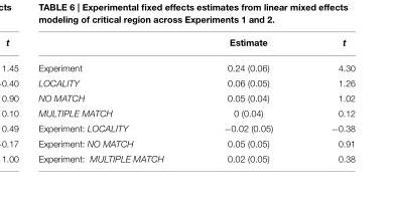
<table><thead><tr><td></td><td>Estimate</td><td>t</td></tr></thead><tbody><tr><td>Experiment</td><td>0.24 (0.06)</td><td>4.30</td></tr><tr><td>LOCALITY</td><td>0.06 (0.05)</td><td>1.26</td></tr><tr><td>NO MATCH</td><td>0.05 (0.04)</td><td>1.02</td></tr><tr><td>MULTIPLE MATCH</td><td>0 (0.04)</td><td>0.12</td></tr><tr><td>Experiment: LOCALITY</td><td>−0.02 (0.05)</td><td>−0.38</td></tr><tr><td>Experiment: NO MATCH</td><td>0.05 (0.05)</td><td>0.91</td></tr><tr><td>Experiment: MULTIPLE MATCH</td><td>0.02 (0.05)</td><td>0.38</td></tr></tbody></table>